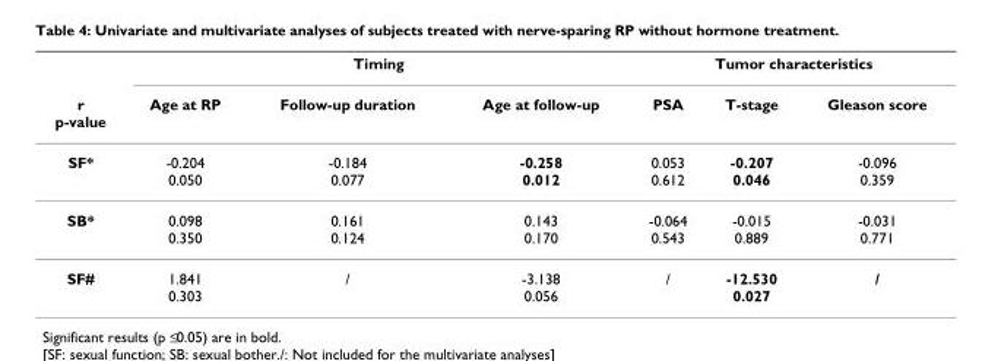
<table><thead><tr><td rowspan="2">r p-value</td><td colspan="3">Timing</td><td colspan="3">Tumor characteristics</td></tr><tr><td>Age at RP</td><td>Follow-up duration</td><td>Age at follow-up</td><td>PSA</td><td>T-stage</td><td>Gleason score</td></tr></thead><tbody><tr><td>SF*</td><td>-0.204 0.050</td><td>-0.184 0.077</td><td>-0.258 0.012</td><td>0.053 0.612</td><td>-0.207 0.046</td><td>-0.096 0.359</td></tr><tr><td>SB*</td><td>0.098 0.350</td><td>0.161 0.124</td><td>0.143 0.170</td><td>-0.064 0.543</td><td>-0.015 0.889</td><td>-0.031 0.771</td></tr><tr><td>SF#</td><td>1.841 0.303</td><td>/</td><td>-3.138 0.056</td><td>/</td><td>-12.530 0.027</td><td>/</td></tr></tbody></table>